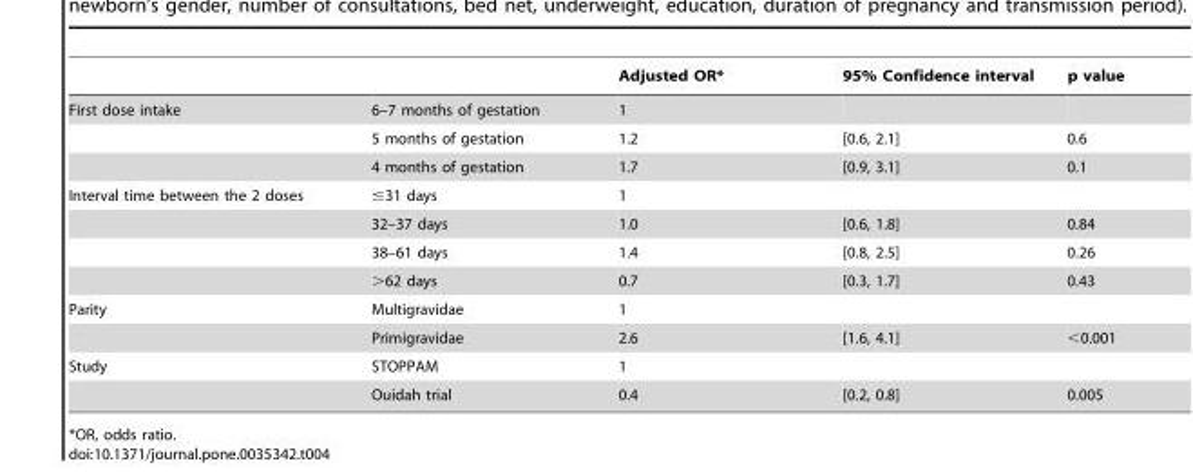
<table><thead><tr><td></td><td></td><td>Adjusted OR*</td><td>95% Confidence interval</td><td>p value</td></tr></thead><tbody><tr><td rowspan="3">First dose intake</td><td>6–7 months of gestation</td><td>1</td><td></td><td></td></tr><tr><td>5 months of gestation</td><td>1.2</td><td>[0.6, 2.1]</td><td>0.6</td></tr><tr><td>4 months of gestation</td><td>1.7</td><td>[0.9, 3.1]</td><td>0.1</td></tr><tr><td rowspan="4">Interval time between the 2 doses</td><td>≤31 days</td><td>1</td><td></td><td></td></tr><tr><td>32–37 days</td><td>1.0</td><td>[0.6, 1.8]</td><td>0.84</td></tr><tr><td>38–61 days</td><td>1.4</td><td>[0.8, 2.5]</td><td>0.26</td></tr><tr><td>&gt;62 days</td><td>0.7</td><td>[0.3, 1.7]</td><td>0.43</td></tr><tr><td rowspan="2">Parity</td><td>Multigravidae</td><td>1</td><td></td><td></td></tr><tr><td>Primigravidae</td><td>2.6</td><td>[1.6, 4.1]</td><td>&lt;0.001</td></tr><tr><td rowspan="2">Study</td><td>STOPPAM</td><td>1</td><td></td><td></td></tr><tr><td>Ouidah trial</td><td>0.4</td><td>[0.2, 0.8]</td><td>0.005</td></tr></tbody></table>